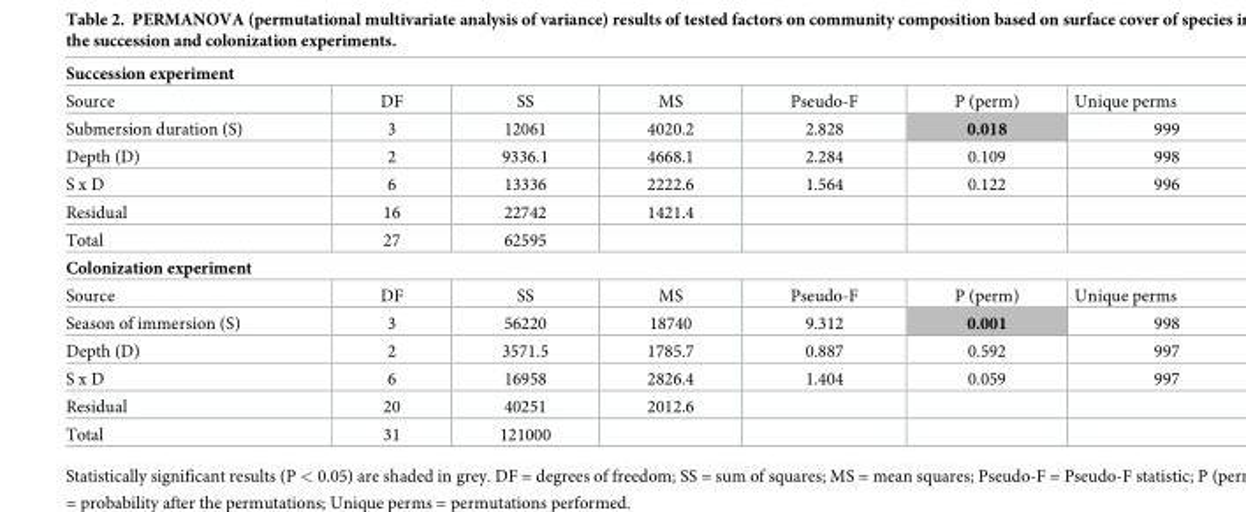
<table><tbody><tr><td colspan="7">Succession experiment</td></tr><tr><td>Source</td><td>DF</td><td>SS</td><td>MS</td><td>Pseudo-F</td><td>P (perm)</td><td>Unique perms</td></tr><tr><td>Submersion duration (S)</td><td>3</td><td>12061</td><td>4020.2</td><td>2.828</td><td>0.018</td><td>999</td></tr><tr><td>Depth (D)</td><td>2</td><td>9336.1</td><td>4668.1</td><td>2.284</td><td>0.109</td><td>998</td></tr><tr><td>S x D</td><td>6</td><td>13336</td><td>2222.6</td><td>1.564</td><td>0.122</td><td>996</td></tr><tr><td>Residual</td><td>16</td><td>22742</td><td>1421.4</td><td></td><td></td><td></td></tr><tr><td>Total</td><td>27</td><td>62595</td><td></td><td></td><td></td><td></td></tr><tr><td colspan="7">Colonization experiment</td></tr><tr><td>Source</td><td>DF</td><td>SS</td><td>MS</td><td>Pseudo-F</td><td>P (perm)</td><td>Unique perms</td></tr><tr><td>Season of immersion (S)</td><td>3</td><td>56220</td><td>18740</td><td>9.312</td><td>0.001</td><td>998</td></tr><tr><td>Depth (D)</td><td>2</td><td>3571.5</td><td>1785.7</td><td>0.887</td><td>0.592</td><td>997</td></tr><tr><td>S x D</td><td>6</td><td>16958</td><td>2826.4</td><td>1.404</td><td>0.059</td><td>997</td></tr><tr><td>Residual</td><td>20</td><td>40251</td><td>2012.6</td><td></td><td></td><td></td></tr><tr><td>Total</td><td>31</td><td>121000</td><td></td><td></td><td></td><td></td></tr></tbody></table>